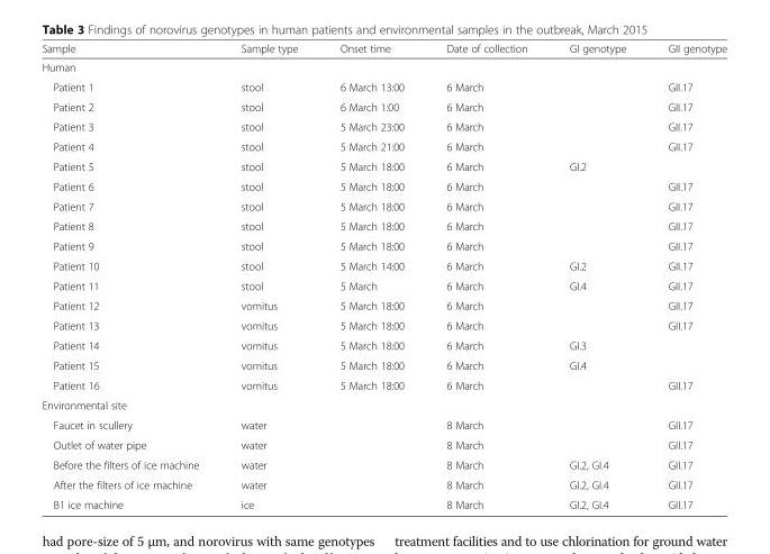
<table><thead><tr><td>Sample</td><td>Sample type</td><td>Onset time</td><td>Date of collection</td><td>GI genotype</td><td>GII genotype</td></tr></thead><tbody><tr><td colspan="6">Human</td></tr><tr><td>Patient 1</td><td>stool</td><td>6 March 13:00</td><td>6 March</td><td></td><td>GII.17</td></tr><tr><td>Patient 2</td><td>stool</td><td>6 March 1:00</td><td>6 March</td><td></td><td>GII.17</td></tr><tr><td>Patient 3</td><td>stool</td><td>5 March 23:00</td><td>6 March</td><td></td><td>GII.17</td></tr><tr><td>Patient 4</td><td>stool</td><td>5 March 21:00</td><td>6 March</td><td></td><td>GII.17</td></tr><tr><td>Patient 5</td><td>stool</td><td>5 March 18:00</td><td>6 March</td><td>GI.2</td><td></td></tr><tr><td>Patient 6</td><td>stool</td><td>5 March 18:00</td><td>6 March</td><td></td><td>GII.17</td></tr><tr><td>Patient 7</td><td>stool</td><td>5 March 18:00</td><td>6 March</td><td></td><td>GII.17</td></tr><tr><td>Patient 8</td><td>stool</td><td>5 March 18:00</td><td>6 March</td><td></td><td>GII.17</td></tr><tr><td>Patient 9</td><td>stool</td><td>5 March 18:00</td><td>6 March</td><td></td><td>GII.17</td></tr><tr><td>Patient 10</td><td>stool</td><td>5 March 14:00</td><td>6 March</td><td>GI.2</td><td>GII.17</td></tr><tr><td>Patient 11</td><td>stool</td><td>5 March</td><td>6 March</td><td>GI.4</td><td>GII.17</td></tr><tr><td>Patient 12</td><td>vomitus</td><td>5 March 18:00</td><td>6 March</td><td></td><td>GII.17</td></tr><tr><td>Patient 13</td><td>vomitus</td><td>5 March 18:00</td><td>6 March</td><td></td><td>GII.17</td></tr><tr><td>Patient 14</td><td>vomitus</td><td>5 March 18:00</td><td>6 March</td><td>GI.3</td><td></td></tr><tr><td>Patient 15</td><td>vomitus</td><td>5 March 18:00</td><td>6 March</td><td>GI.4</td><td></td></tr><tr><td>Patient 16</td><td>vomitus</td><td>5 March 18:00</td><td>6 March</td><td></td><td>GII.17</td></tr><tr><td colspan="6">Environmental site</td></tr><tr><td>Faucet in scullery</td><td>water</td><td></td><td>8 March</td><td></td><td>GII.17</td></tr><tr><td>Outlet of water pipe</td><td>water</td><td></td><td>8 March</td><td></td><td>GII.17</td></tr><tr><td>Before the filters of ice machine</td><td>water</td><td></td><td>8 March</td><td>GI.2, GI.4</td><td>GII.17</td></tr><tr><td>After the filters of ice machine</td><td>water</td><td></td><td>8 March</td><td>GI.2, GI.4</td><td>GII.17</td></tr><tr><td>B1 ice machine</td><td>ice</td><td></td><td>8 March</td><td>GI.2, GI.4</td><td>GII.17</td></tr></tbody></table>